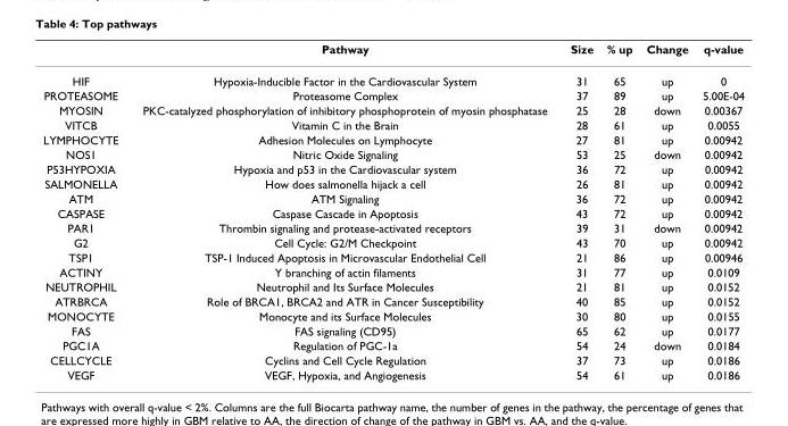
<table><thead><tr><td></td><td>Pathway</td><td>Size</td><td>% up</td><td>Change</td><td>q-value</td></tr></thead><tbody><tr><td>HIF</td><td>Hypoxia-Inducible Factor in the Cardiovascular System</td><td>31</td><td>65</td><td>up</td><td>0</td></tr><tr><td>PROTEASOME</td><td>Proteasome Complex</td><td>37</td><td>89</td><td>up</td><td>5.00E-04</td></tr><tr><td>MYOSIN</td><td>PKC-catalyzed phosphorylation of inhibitory phosphoprotein of myosin phosphatase</td><td>25</td><td>28</td><td>down</td><td>0.00367</td></tr><tr><td>VITCB</td><td>Vitamin C in the Brain</td><td>28</td><td>61</td><td>up</td><td>0.0055</td></tr><tr><td>LYMPHOCYTE</td><td>Adhesion Molecules on Lymphocyte</td><td>27</td><td>81</td><td>up</td><td>0.00942</td></tr><tr><td>NOS1</td><td>Nitric Oxide Signaling</td><td>53</td><td>25</td><td>down</td><td>0.00942</td></tr><tr><td>P53HYPOXIA</td><td>Hypoxia and p53 in the Cardiovascular system</td><td>36</td><td>72</td><td>up</td><td>0.00942</td></tr><tr><td>SALMONELLA</td><td>How does salmonella hijack a cell</td><td>26</td><td>81</td><td>up</td><td>0.00942</td></tr><tr><td>ATM</td><td>ATM Signaling</td><td>36</td><td>72</td><td>up</td><td>0.00942</td></tr><tr><td>CASPASE</td><td>Caspase Cascade in Apoptosis</td><td>43</td><td>72</td><td>up</td><td>0.00942</td></tr><tr><td>PAR1</td><td>Thrombin signaling and protease-activated receptors</td><td>39</td><td>31</td><td>down</td><td>0.00942</td></tr><tr><td>G2</td><td>Cell Cycle: G2/M Checkpoint</td><td>43</td><td>70</td><td>up</td><td>0.00942</td></tr><tr><td>TSP1</td><td>TSP-1 Induced Apoptosis in Microvascular Endothelial Cell</td><td>21</td><td>86</td><td>up</td><td>0.00946</td></tr><tr><td>ACTINY</td><td>Y branching of actin filaments</td><td>31</td><td>77</td><td>up</td><td>0.0109</td></tr><tr><td>NEUTROPHIL</td><td>Neutrophil and Its Surface Molecules</td><td>21</td><td>81</td><td>up</td><td>0.0152</td></tr><tr><td>ATRBRCA</td><td>Role of BRCA1, BRCA2 and ATR in Cancer Susceptibility</td><td>40</td><td>85</td><td>up</td><td>0.0152</td></tr><tr><td>MONOCYTE</td><td>Monocyte and its Surface Molecules</td><td>30</td><td>80</td><td>up</td><td>0.0155</td></tr><tr><td>FAS</td><td>FAS signaling (CD95)</td><td>65</td><td>62</td><td>up</td><td>0.0177</td></tr><tr><td>PGC1A</td><td>Regulation of PGC-1a</td><td>54</td><td>24</td><td>down</td><td>0.0184</td></tr><tr><td>CELLCYCLE</td><td>Cyclins and Cell Cycle Regulation</td><td>37</td><td>73</td><td>up</td><td>0.0186</td></tr><tr><td>VEGF</td><td>VEGF, Hypoxia, and Angiogenesis</td><td>54</td><td>61</td><td>up</td><td>0.0186</td></tr></tbody></table>